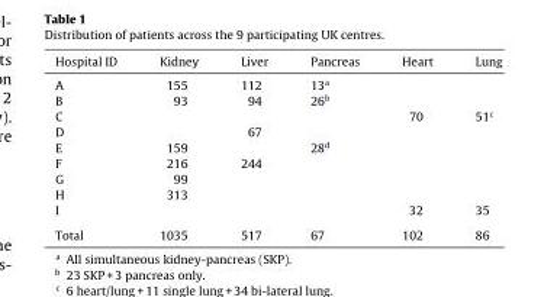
<table><thead><tr><td>Hospital ID</td><td>Kidney</td><td>Liver</td><td>Pancreas</td><td>Heart</td><td>Lung</td></tr></thead><tbody><tr><td>A</td><td>155</td><td>112</td><td>13<sup>a</sup></td><td></td><td></td></tr><tr><td>B</td><td>93</td><td>94</td><td>26<sup>b</sup></td><td></td><td></td></tr><tr><td>C</td><td></td><td></td><td></td><td>70</td><td>51<sup>c</sup></td></tr><tr><td>D</td><td></td><td>67</td><td></td><td></td><td></td></tr><tr><td>E</td><td>159</td><td></td><td>28<sup>d</sup></td><td></td><td></td></tr><tr><td>F</td><td>216</td><td>244</td><td></td><td></td><td></td></tr><tr><td>G</td><td>99</td><td></td><td></td><td></td><td></td></tr><tr><td>H</td><td>313</td><td></td><td></td><td></td><td></td></tr><tr><td>I</td><td></td><td></td><td></td><td>32</td><td>35</td></tr><tr><td>Total</td><td>1035</td><td>517</td><td>67</td><td>102</td><td>86</td></tr></tbody></table>